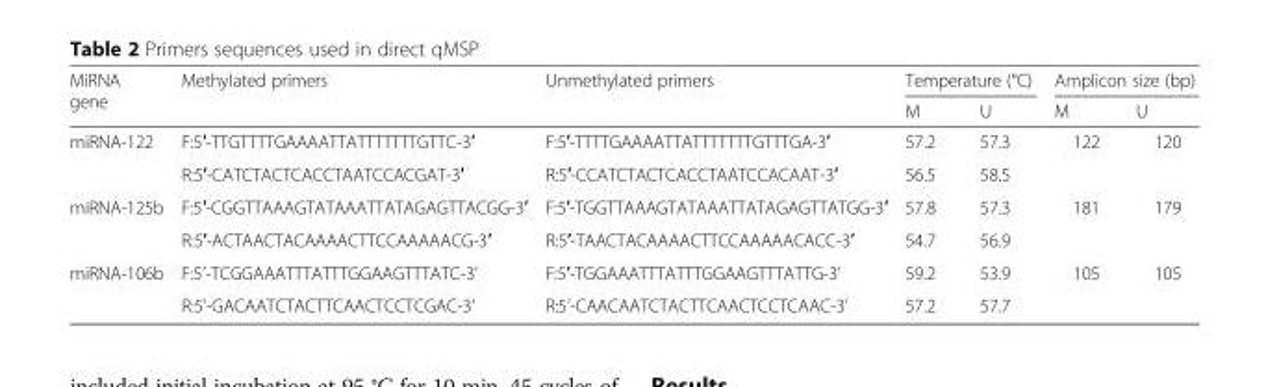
<table><thead><tr><td rowspan="2">MiRNA gene</td><td rowspan="2">Methylated primers</td><td rowspan="2">Unmethylated primers</td><td colspan="2">Temperature (°C)</td><td colspan="2">Amplicon size (bp)</td></tr><tr><td>M</td><td>U</td><td>M</td><td>U</td></tr></thead><tbody><tr><td rowspan="2">miRNA-122</td><td>F:5′-TTGTTTTGAAAATTATTTTTTTGTTC-3′</td><td>F:5′-TTTTGAAAATTATTTTTTTGTTTGA-3′</td><td>57.2</td><td>57.3</td><td rowspan="2">122</td><td rowspan="2">120</td></tr><tr><td>R:5′-CATCTACTCACCTAATCCACGAT-3′</td><td>R:5′-CCATCTACTCACCTAATCCACAAT-3′</td><td>56.5</td><td>58.5</td></tr><tr><td rowspan="2">miRNA-125b</td><td>F:5′-CGGTTAAAGTATAAATTATAGAGTTACGG-3′</td><td>F:5′-TGGTTAAAGTATAAATTATAGAGTTATGG-3′</td><td>57.8</td><td>57.3</td><td rowspan="2">181</td><td rowspan="2">179</td></tr><tr><td>R:5′-ACTAACTACAAAACTTCCAAAAACG-3′</td><td>R:5′-TAACTACAAAACTTCCAAAAACACC-3′</td><td>54.7</td><td>56.9</td></tr><tr><td rowspan="2">miRNA-106b</td><td>F:5’-TCGGAAATTTATTTGGAAGTTTATC-3’</td><td>F:5′-TGGAAATTTATTTGGAAGTTTATTG-3’</td><td>59.2</td><td>53.9</td><td rowspan="2">105</td><td rowspan="2">105</td></tr><tr><td>R:5’-GACAATCTACTTCAACTCCTCGAC-3’</td><td>R:5’-CAACAATCTACTTCAACTCCTCAAC-3’</td><td>57.2</td><td>57.7</td></tr></tbody></table>